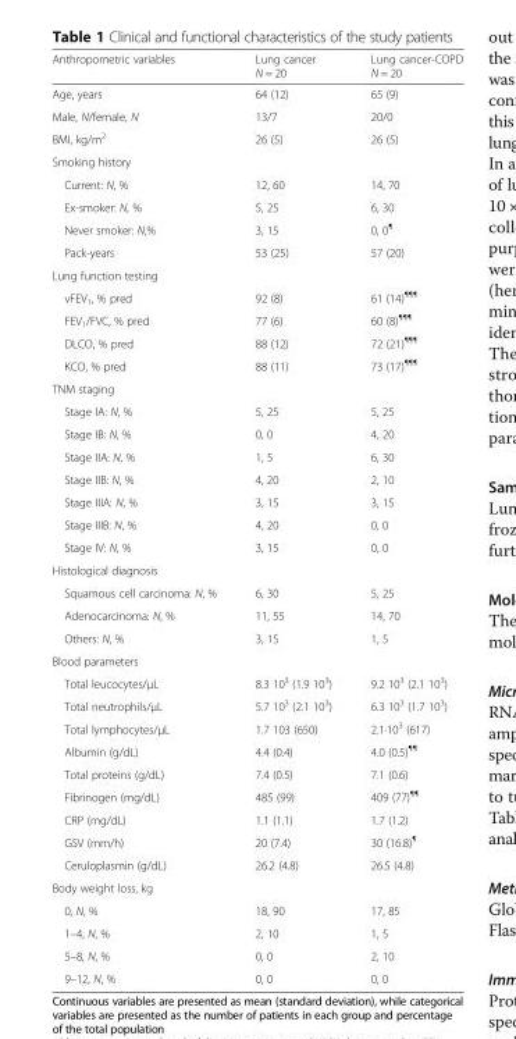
<table><thead><tr><td>Anthropometric variables</td><td>Lung cancer N = 20</td><td>Lung cancer-COPD N = 20</td></tr></thead><tbody><tr><td>Age, years</td><td>64 (12)</td><td>65 (9)</td></tr><tr><td>Male, N/female, N</td><td>13/7</td><td>20/0</td></tr><tr><td>BMI, kg/m<sup>2</sup></td><td>26 (5)</td><td>26 (5)</td></tr><tr><td colspan="3">Smoking history</td></tr><tr><td>Current: N, %</td><td>12, 60</td><td>14, 70</td></tr><tr><td>Ex-smoker: N, %</td><td>5, 25</td><td>6, 30</td></tr><tr><td>Never smoker: N,%</td><td>3, 15</td><td>0, 0<sup>¶</sup></td></tr><tr><td>Pack-years</td><td>53 (25)</td><td>57 (20)</td></tr><tr><td colspan="3">Lung function testing</td></tr><tr><td>vFEV<sub>1</sub>, % pred</td><td>92 (8)</td><td>61 (14)<sup>¶¶¶</sup></td></tr><tr><td>FEV<sub>1</sub>/FVC, % pred</td><td>77 (6)</td><td>60 (8)<sup>¶¶¶</sup></td></tr><tr><td>DLCO, % pred</td><td>88 (12)</td><td>72 (21)<sup>¶¶¶</sup></td></tr><tr><td>KCO, % pred</td><td>88 (11)</td><td>73 (17)<sup>¶¶¶</sup></td></tr><tr><td colspan="3">TNM staging</td></tr><tr><td>Stage IA: N, %</td><td>5, 25</td><td>5, 25</td></tr><tr><td>Stage IB: N, %</td><td>0, 0</td><td>4, 20</td></tr><tr><td>Stage IIA: N, %</td><td>1, 5</td><td>6, 30</td></tr><tr><td>Stage IIB: N, %</td><td>4, 20</td><td>2, 10</td></tr><tr><td>Stage IIIA: N, %</td><td>3, 15</td><td>3, 15</td></tr><tr><td>Stage IIIB: N, %</td><td>4, 20</td><td>0, 0</td></tr><tr><td>Stage IV: N, %</td><td>3, 15</td><td>0, 0</td></tr><tr><td colspan="3">Histological diagnosis</td></tr><tr><td>Squamous cell carcinoma: N, %</td><td>6, 30</td><td>5, 25</td></tr><tr><td>Adenocarcinoma: N, %</td><td>11, 55</td><td>14, 70</td></tr><tr><td>Others: N, %</td><td>3, 15</td><td>1, 5</td></tr><tr><td colspan="3">Blood parameters</td></tr><tr><td>Total leucocytes/μL</td><td>8.3 10<sup>3</sup> (1.9 10<sup>3</sup>)</td><td>9.2 10<sup>3</sup> (2.1 10<sup>3</sup>)</td></tr><tr><td>Total neutrophils/μL</td><td>5.7 10<sup>3</sup> (2.1 10<sup>3</sup>)</td><td>6.3 10<sup>3</sup> (1.7 10<sup>3</sup>)</td></tr><tr><td>Total lymphocytes/μL</td><td>1.7 103 (650)</td><td>2.1·10<sup>3</sup> (617)</td></tr><tr><td>Albumin (g/dL)</td><td>4.4 (0.4)</td><td>4.0 (0.5)<sup>¶¶</sup></td></tr><tr><td>Total proteins (g/dL)</td><td>7.4 (0.5)</td><td>7.1 (0.6)</td></tr><tr><td>Fibrinogen (mg/dL)</td><td>485 (99)</td><td>409 (77)<sup>¶¶</sup></td></tr><tr><td>CRP (mg/dL)</td><td>1.1 (1.1)</td><td>1.7 (1.2)</td></tr><tr><td>GSV (mm/h)</td><td>20 (7.4)</td><td>30 (16.8)<sup>¶</sup></td></tr><tr><td>Ceruloplasmin (g/dL)</td><td>26.2 (4.8)</td><td>26.5 (4.8)</td></tr><tr><td colspan="3">Body weight loss, kg</td></tr><tr><td>0, N, %</td><td>18, 90</td><td>17, 85</td></tr><tr><td>1–4, N, %</td><td>2, 10</td><td>1, 5</td></tr><tr><td>5–8, N, %</td><td>0, 0</td><td>2, 10</td></tr><tr><td>9–12, N, %</td><td>0, 0</td><td>0, 0</td></tr></tbody></table>